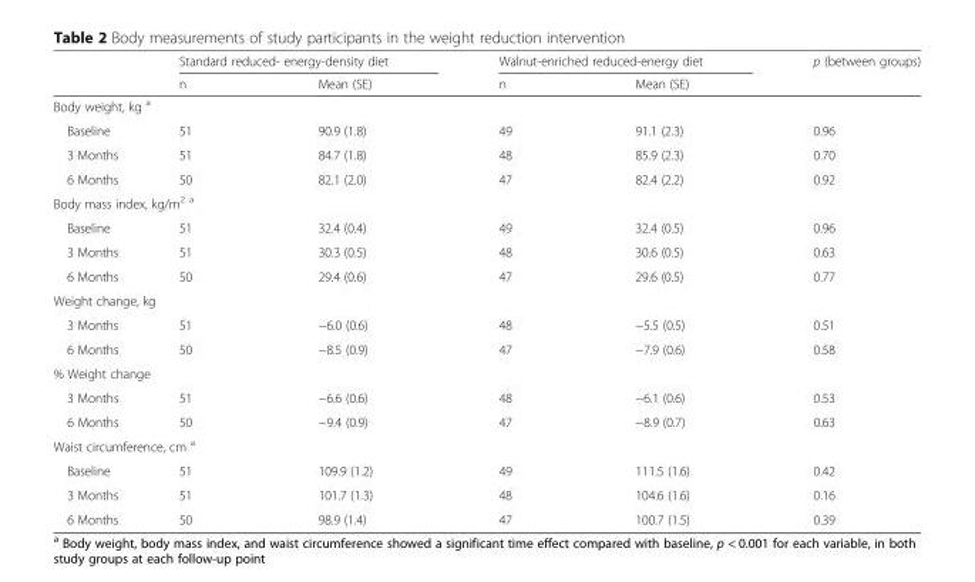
<table><thead><tr><td rowspan="2"></td><td colspan="2">Standard reduced- energy-density diet</td><td colspan="2">Walnut-enriched reduced-energy diet</td><td rowspan="2">p (between groups)</td></tr><tr><td>n</td><td>Mean (SE)</td><td>n</td><td>Mean (SE)</td></tr></thead><tbody><tr><td colspan="6">Body weight, kg <sup>a</sup></td></tr><tr><td>Baseline</td><td>51</td><td>90.9 (1.8)</td><td>49</td><td>91.1 (2.3)</td><td>0.96</td></tr><tr><td>3 Months</td><td>51</td><td>84.7 (1.8)</td><td>48</td><td>85.9 (2.3)</td><td>0.70</td></tr><tr><td>6 Months</td><td>50</td><td>82.1 (2.0)</td><td>47</td><td>82.4 (2.2)</td><td>0.92</td></tr><tr><td colspan="6">Body mass index, kg/m<sup>2 a</sup></td></tr><tr><td>Baseline</td><td>51</td><td>32.4 (0.4)</td><td>49</td><td>32.4 (0.5)</td><td>0.96</td></tr><tr><td>3 Months</td><td>51</td><td>30.3 (0.5)</td><td>48</td><td>30.6 (0.5)</td><td>0.63</td></tr><tr><td>6 Months</td><td>50</td><td>29.4 (0.6)</td><td>47</td><td>29.6 (0.5)</td><td>0.77</td></tr><tr><td colspan="6">Weight change, kg</td></tr><tr><td>3 Months</td><td>51</td><td>−6.0 (0.6)</td><td>48</td><td>−5.5 (0.5)</td><td>0.51</td></tr><tr><td>6 Months</td><td>50</td><td>−8.5 (0.9)</td><td>47</td><td>−7.9 (0.6)</td><td>0.58</td></tr><tr><td colspan="6">% Weight change</td></tr><tr><td>3 Months</td><td>51</td><td>−6.6 (0.6)</td><td>48</td><td>−6.1 (0.6)</td><td>0.53</td></tr><tr><td>6 Months</td><td>50</td><td>−9.4 (0.9)</td><td>47</td><td>−8.9 (0.7)</td><td>0.63</td></tr><tr><td colspan="6">Waist circumference, cm <sup>a</sup></td></tr><tr><td>Baseline</td><td>51</td><td>109.9 (1.2)</td><td>49</td><td>111.5 (1.6)</td><td>0.42</td></tr><tr><td>3 Months</td><td>51</td><td>101.7 (1.3)</td><td>48</td><td>104.6 (1.6)</td><td>0.16</td></tr><tr><td>6 Months</td><td>50</td><td>98.9 (1.4)</td><td>47</td><td>100.7 (1.5)</td><td>0.39</td></tr></tbody></table>